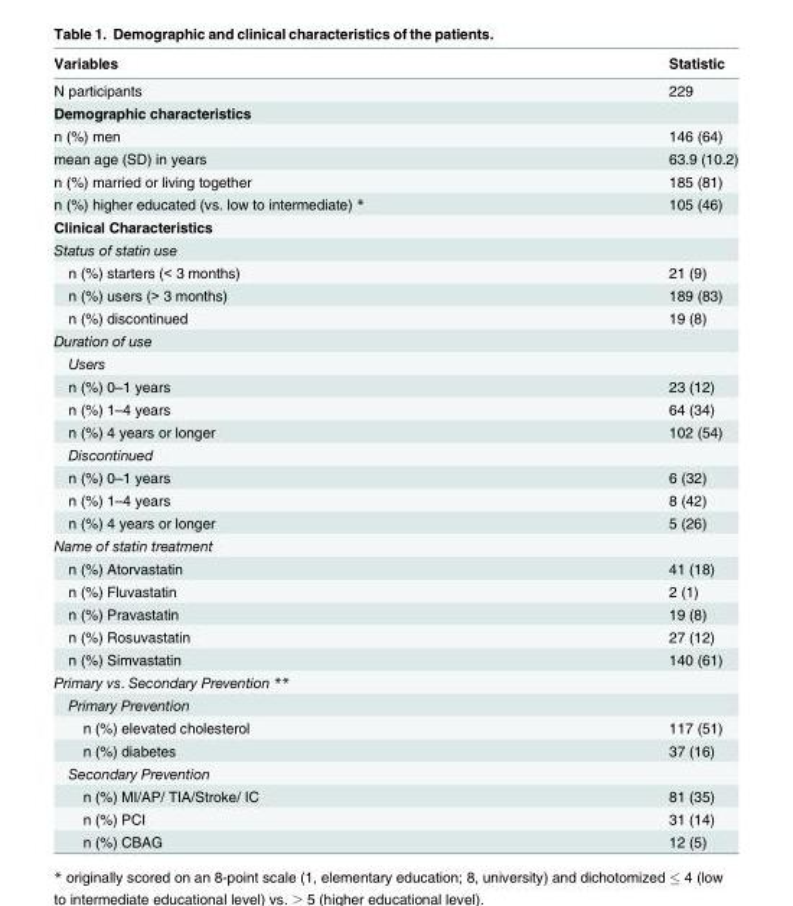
<table><thead><tr><td>Variables</td><td>Statistic</td></tr></thead><tbody><tr><td>N participants</td><td>229</td></tr><tr><td colspan="2">Demographic characteristics</td></tr><tr><td>n (%) men</td><td>146 (64)</td></tr><tr><td>mean age (SD) in years</td><td>63.9 (10.2)</td></tr><tr><td>n (%) married or living together</td><td>185 (81)</td></tr><tr><td>n (%) higher educated (vs. low to intermediate) *</td><td>105 (46)</td></tr><tr><td colspan="2">Clinical Characteristics</td></tr><tr><td colspan="2">Status of statin use</td></tr><tr><td>n (%) starters (&lt; 3 months)</td><td>21 (9)</td></tr><tr><td>n (%) users (&gt; 3 months)</td><td>189 (83)</td></tr><tr><td>n (%) discontinued</td><td>19 (8)</td></tr><tr><td colspan="2">Duration of use</td></tr><tr><td colspan="2">Users</td></tr><tr><td>n (%) 0–1 years</td><td>23 (12)</td></tr><tr><td>n (%) 1–4 years</td><td>64 (34)</td></tr><tr><td>n (%) 4 years or longer</td><td>102 (54)</td></tr><tr><td colspan="2">Discontinued</td></tr><tr><td>n (%) 0–1 years</td><td>6 (32)</td></tr><tr><td>n (%) 1–4 years</td><td>8 (42)</td></tr><tr><td>n (%) 4 years or longer</td><td>5 (26)</td></tr><tr><td colspan="2">Name of statin treatment</td></tr><tr><td>n (%) Atorvastatin</td><td>41 (18)</td></tr><tr><td>n (%) Fluvastatin</td><td>2 (1)</td></tr><tr><td>n (%) Pravastatin</td><td>19 (8)</td></tr><tr><td>n (%) Rosuvastatin</td><td>27 (12)</td></tr><tr><td>n (%) Simvastatin</td><td>140 (61)</td></tr><tr><td colspan="2">Primary vs. Secondary Prevention **</td></tr><tr><td colspan="2">Primary Prevention</td></tr><tr><td>n (%) elevated cholesterol</td><td>117 (51)</td></tr><tr><td>n (%) diabetes</td><td>37 (16)</td></tr><tr><td colspan="2">Secondary Prevention</td></tr><tr><td>n (%) MI/AP/ TIA/Stroke/ IC</td><td>81 (35)</td></tr><tr><td>n (%) PCI</td><td>31 (14)</td></tr><tr><td>n (%) CBAG</td><td>12 (5)</td></tr></tbody></table>